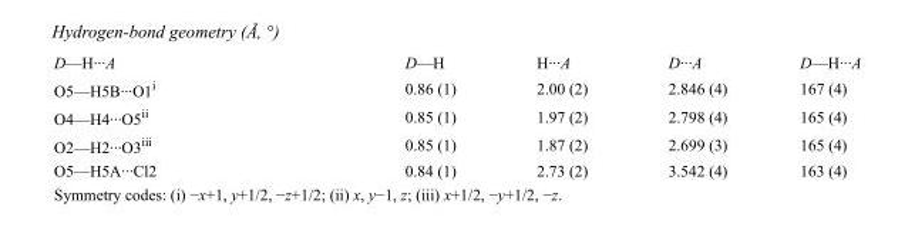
<table><tbody><tr><td>D—H···A</td><td>D—H</td><td>H···A</td><td>D···A</td><td>D—H···A</td></tr><tr><td>O5—H5B···O1<sup>i</sup></td><td>0.86 (1)</td><td>2.00 (2)</td><td>2.846 (4)</td><td>167 (4)</td></tr><tr><td>O4—H4···O5<sup>ii</sup></td><td>0.85 (1)</td><td>1.97 (2)</td><td>2.798 (4)</td><td>165 (4)</td></tr><tr><td>O2—H2···O3<sup>iii</sup></td><td>0.85 (1)</td><td>1.87 (2)</td><td>2.699 (3)</td><td>165 (4)</td></tr><tr><td>O5—H5A···Cl2</td><td>0.84 (1)</td><td>2.73 (2)</td><td>3.542 (4)</td><td>163 (4)</td></tr></tbody></table>